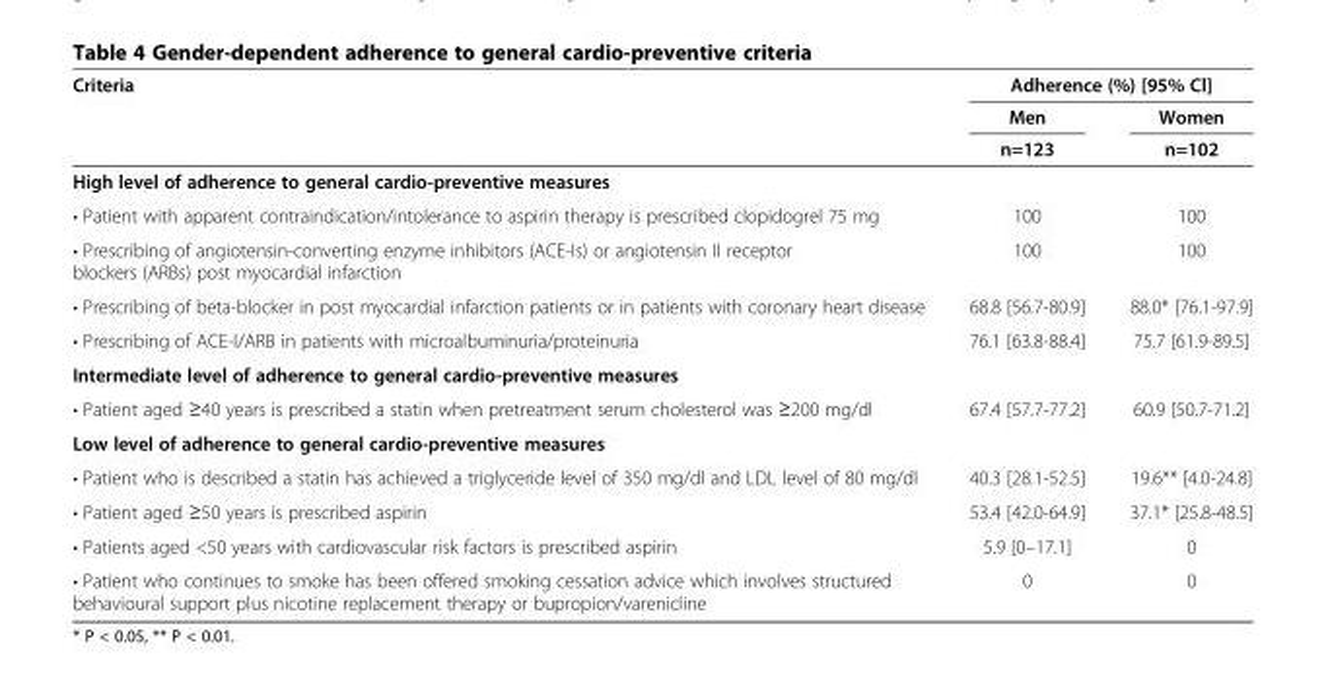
<table><thead><tr><td rowspan="3">Criteria</td><td colspan="2">Adherence (%) [95% Cl]</td></tr><tr><td rowspan="2">Men n=123</td><td rowspan="2">Women n=102</td></tr><tr></tr></thead><tbody><tr><td colspan="3">High level of adherence to general cardio-preventive measures</td></tr><tr><td>• Patient with apparent contraindication/intolerance to aspirin therapy is prescribed clopidogrel 75 mg</td><td>100</td><td>100</td></tr><tr><td>• Prescribing of angiotensin-converting enzyme inhibitors (ACE-Is) or angiotensin II receptor blockers (ARBs) post myocardial infarction</td><td>100</td><td>100</td></tr><tr><td>• Prescribing of beta-blocker in post myocardial infarction patients or in patients with coronary heart disease</td><td>68.8 [56.7-80.9]</td><td>88.0* [76.1-97.9]</td></tr><tr><td>• Prescribing of ACE-I/ARB in patients with microalbuminuria/proteinuria</td><td>76.1 [63.8-88.4]</td><td>75.7 [61.9-89.5]</td></tr><tr><td colspan="3">Intermediate level of adherence to general cardio-preventive measures</td></tr><tr><td>• Patient aged ≥40 years is prescribed a statin when pretreatment serum cholesterol was ≥200 mg/dl</td><td>67.4 [57.7-77.2]</td><td>60.9 [50.7-71.2]</td></tr><tr><td colspan="3">Low level of adherence to general cardio-preventive measures</td></tr><tr><td>• Patient who is described a statin has achieved a triglyceride level of 350 mg/dl and LDL level of 80 mg/dl</td><td>40.3 [28.1-52.5]</td><td>19.6** [4.0-24.8]</td></tr><tr><td>• Patient aged ≥50 years is prescribed aspirin</td><td>53.4 [42.0-64.9]</td><td>37.1* [25.8-48.5]</td></tr><tr><td>• Patients aged &lt;50 years with cardiovascular risk factors is prescribed aspirin</td><td>5.9 [0–17.1]</td><td>0</td></tr><tr><td>• Patient who continues to smoke has been offered smoking cessation advice which involves structured behavioural support plus nicotine replacement therapy or bupropion/varenicline</td><td>0</td><td>0</td></tr></tbody></table>